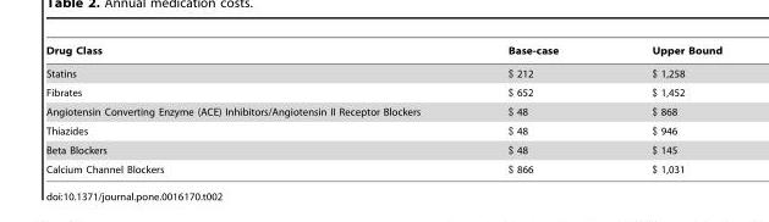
<table><thead><tr><td>Drug Class</td><td>Base-case</td><td>Upper Bound</td></tr></thead><tbody><tr><td>Statins</td><td>$ 212</td><td>$ 1,258</td></tr><tr><td>Fibrates</td><td>$ 652</td><td>$ 1,452</td></tr><tr><td>Angiotensin Converting Enzyme (ACE) Inhibitors/Angiotensin II Receptor Blockers</td><td>$ 48</td><td>$ 868</td></tr><tr><td>Thiazides</td><td>$ 48</td><td>$ 946</td></tr><tr><td>Beta Blockers</td><td>$ 48</td><td>$ 145</td></tr><tr><td>Calcium Channel Blockers</td><td>$ 866</td><td>$ 1,031</td></tr></tbody></table>